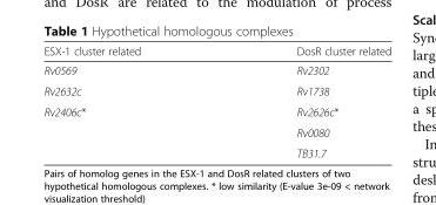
<table><thead><tr><td>ESX-1 cluster related</td><td>DosR cluster related</td></tr></thead><tbody><tr><td>Rv0569</td><td>Rv2302</td></tr><tr><td>Rv2632c</td><td>Rv1738</td></tr><tr><td rowspan="3">Rv2406c*</td><td>Rv2626c*</td></tr><tr><td>Rv0080</td></tr><tr><td>TB31.7</td></tr></tbody></table>